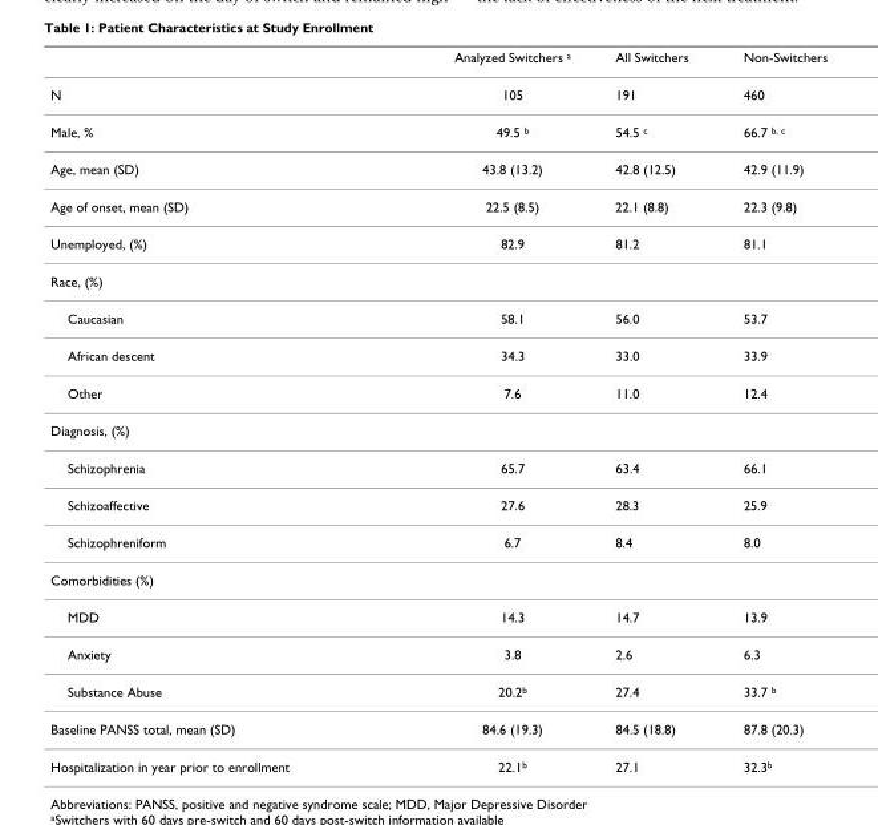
<table><thead><tr><td></td><td>Analyzed Switchers <sup>a</sup></td><td>All Switchers</td><td>Non-Switchers</td></tr></thead><tbody><tr><td>N</td><td>105</td><td>191</td><td>460</td></tr><tr><td>Male, %</td><td>49.5 <sup>b</sup></td><td>54.5 <sup>c</sup></td><td>66.7 <sup>b, c</sup></td></tr><tr><td>Age, mean (SD)</td><td>43.8 (13.2)</td><td>42.8 (12.5)</td><td>42.9 (11.9)</td></tr><tr><td>Age of onset, mean (SD)</td><td>22.5 (8.5)</td><td>22.1 (8.8)</td><td>22.3 (9.8)</td></tr><tr><td>Unemployed, (%)</td><td>82.9</td><td>81.2</td><td>81.1</td></tr><tr><td colspan="4">Race, (%)</td></tr><tr><td>Caucasian</td><td>58.1</td><td>56.0</td><td>53.7</td></tr><tr><td>African descent</td><td>34.3</td><td>33.0</td><td>33.9</td></tr><tr><td>Other</td><td>7.6</td><td>11.0</td><td>12.4</td></tr><tr><td colspan="4">Diagnosis, (%)</td></tr><tr><td>Schizophrenia</td><td>65.7</td><td>63.4</td><td>66.1</td></tr><tr><td>Schizoaffective</td><td>27.6</td><td>28.3</td><td>25.9</td></tr><tr><td>Schizophreniform</td><td>6.7</td><td>8.4</td><td>8.0</td></tr><tr><td colspan="4">Comorbidities (%)</td></tr><tr><td>MDD</td><td>14.3</td><td>14.7</td><td>13.9</td></tr><tr><td>Anxiety</td><td>3.8</td><td>2.6</td><td>6.3</td></tr><tr><td>Substance Abuse</td><td>20.2<sup>b</sup></td><td>27.4</td><td>33.7 <sup>b</sup></td></tr><tr><td>Baseline PANSS total, mean (SD)</td><td>84.6 (19.3)</td><td>84.5 (18.8)</td><td>87.8 (20.3)</td></tr><tr><td>Hospitalization in year prior to enrollment</td><td>22.1<sup>b</sup></td><td>27.1</td><td>32.3<sup>b</sup></td></tr></tbody></table>